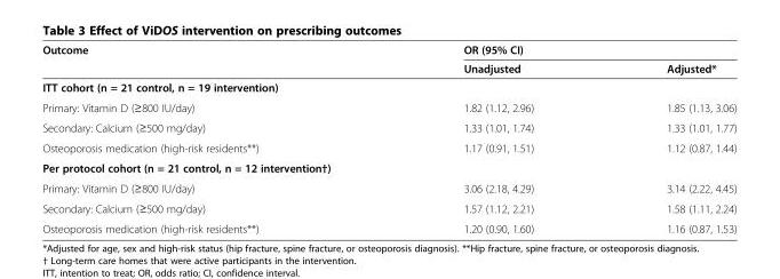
<table><thead><tr><td rowspan="2">Outcome</td><td colspan="2">OR (95% CI)</td></tr><tr><td>Unadjusted</td><td>Adjusted*</td></tr></thead><tbody><tr><td colspan="3">ITT cohort (n = 21 control, n = 19 intervention)</td></tr><tr><td>Primary: Vitamin D (≥800 IU/day)</td><td>1.82 (1.12, 2.96)</td><td>1.85 (1.13, 3.06)</td></tr><tr><td>Secondary: Calcium (≥500 mg/day)</td><td>1.33 (1.01, 1.74)</td><td>1.33 (1.01, 1.77)</td></tr><tr><td>Osteoporosis medication (high-risk residents**)</td><td>1.17 (0.91, 1.51)</td><td>1.12 (0.87, 1.44)</td></tr><tr><td colspan="3">Per protocol cohort (n = 21 control, n = 12 intervention†)</td></tr><tr><td>Primary: Vitamin D (≥800 IU/day)</td><td>3.06 (2.18, 4.29)</td><td>3.14 (2.22, 4.45)</td></tr><tr><td>Secondary: Calcium (≥500 mg/day)</td><td>1.57 (1.12, 2.21)</td><td>1.58 (1.11, 2.24)</td></tr><tr><td>Osteoporosis medication (high-risk residents**)</td><td>1.20 (0.90, 1.60)</td><td>1.16 (0.87, 1.53)</td></tr></tbody></table>